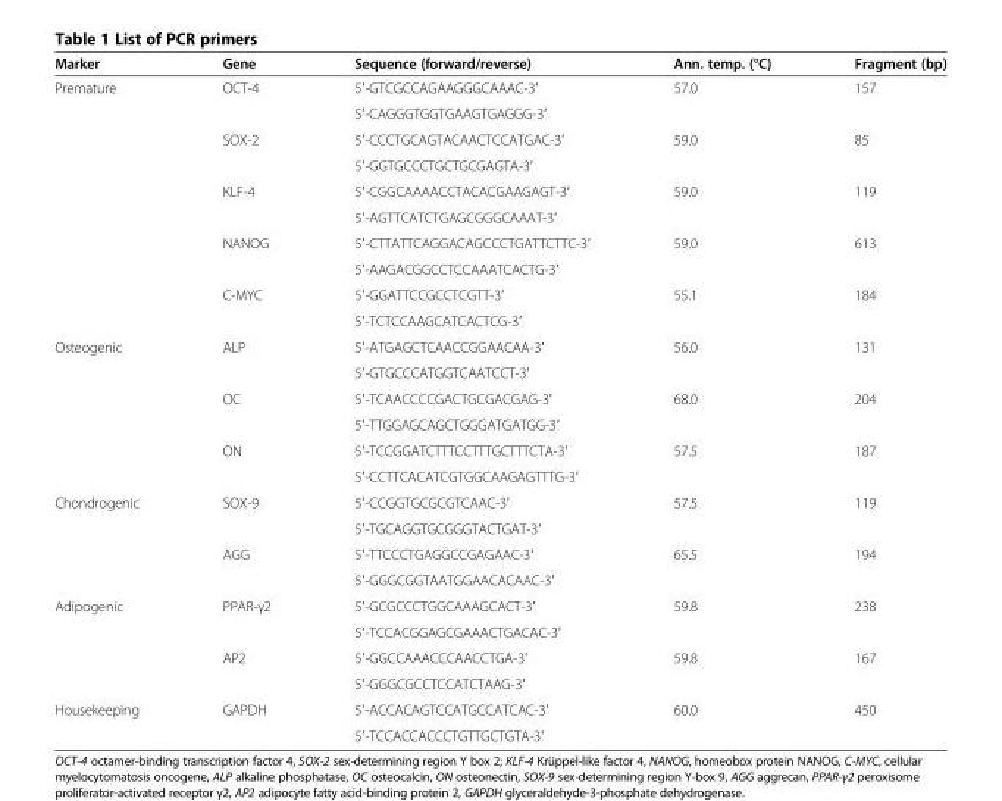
<table><thead><tr><td>Marker</td><td>Gene</td><td>Sequence (forward/reverse)</td><td>Ann. temp. (°C)</td><td>Fragment (bp)</td></tr></thead><tbody><tr><td rowspan="10">Premature</td><td rowspan="2">OCT-4</td><td>5′-GTCGCCAGAAGGGCAAAC-3′</td><td rowspan="2">57.0</td><td rowspan="2">157</td></tr><tr><td>5′-CAGGGTGGTGAAGTGAGGG-3′</td></tr><tr><td rowspan="2">SOX-2</td><td>5′-CCCTGCAGTACAACTCCATGAC-3′</td><td rowspan="2">59.0</td><td rowspan="2">85</td></tr><tr><td>5′-GGTGCCCTGCTGCGAGTA-3′</td></tr><tr><td rowspan="2">KLF-4</td><td>5′-CGGCAAAACCTACACGAAGAGT-3′</td><td rowspan="2">59.0</td><td rowspan="2">119</td></tr><tr><td>5′-AGTTCATCTGAGCGGGCAAAT-3′</td></tr><tr><td rowspan="2">NANOG</td><td>5′-CTTATTCAGGACAGCCCTGATTCTTC-3′</td><td rowspan="2">59.0</td><td rowspan="2">613</td></tr><tr><td>5′-AAGACGGCCTCCAAATCACTG-3′</td></tr><tr><td rowspan="2">C-MYC</td><td>5′-GGATTCCGCCTCGTT-3′</td><td rowspan="2">55.1</td><td rowspan="2">184</td></tr><tr><td>5′-TCTCCAAGCATCACTCG-3′</td></tr><tr><td rowspan="6">Osteogenic</td><td rowspan="2">ALP</td><td>5′-ATGAGCTCAACCGGAACAA-3′</td><td rowspan="2">56.0</td><td rowspan="2">131</td></tr><tr><td>5′-GTGCCCATGGTCAATCCT-3′</td></tr><tr><td rowspan="2">OC</td><td>5′-TCAACCCCGACTGCGACGAG-3′</td><td rowspan="2">68.0</td><td rowspan="2">204</td></tr><tr><td>5′-TTGGAGCAGCTGGGATGATGG-3′</td></tr><tr><td rowspan="2">ON</td><td>5′-TCCGGATCTTTCCTTTGCTTTCTA-3′</td><td rowspan="2">57.5</td><td rowspan="2">187</td></tr><tr><td>5′-CCTTCACATCGTGGCAAGAGTTTG-3′</td></tr><tr><td rowspan="4">Chondrogenic</td><td rowspan="2">SOX-9</td><td>5′-CCGGTGCGCGTCAAC-3′</td><td rowspan="2">57.5</td><td rowspan="2">119</td></tr><tr><td>5′-TGCAGGTGCGGGTACTGAT-3′</td></tr><tr><td rowspan="2">AGG</td><td>5′-TTCCCTGAGGCCGAGAAC-3′</td><td rowspan="2">65.5</td><td rowspan="2">194</td></tr><tr><td>5′-GGGCGGTAATGGAACACAAC-3′</td></tr><tr><td rowspan="4">Adipogenic</td><td rowspan="2">PPAR-γ2</td><td>5′-GCGCCCTGGCAAAGCACT-3′</td><td rowspan="2">59.8</td><td rowspan="2">238</td></tr><tr><td>5′-TCCACGGAGCGAAACTGACAC-3′</td></tr><tr><td rowspan="2">AP2</td><td>5′-GGCCAAACCCAACCTGA-3′</td><td rowspan="2">59.8</td><td rowspan="2">167</td></tr><tr><td>5′-GGGCGCCTCCATCTAAG-3′</td></tr><tr><td rowspan="2">Housekeeping</td><td rowspan="2">GAPDH</td><td>5′-ACCACAGTCCATGCCATCAC-3′</td><td rowspan="2">60.0</td><td rowspan="2">450</td></tr><tr><td>5′-TCCACCACCCTGTTGCTGTA-3′</td></tr></tbody></table>